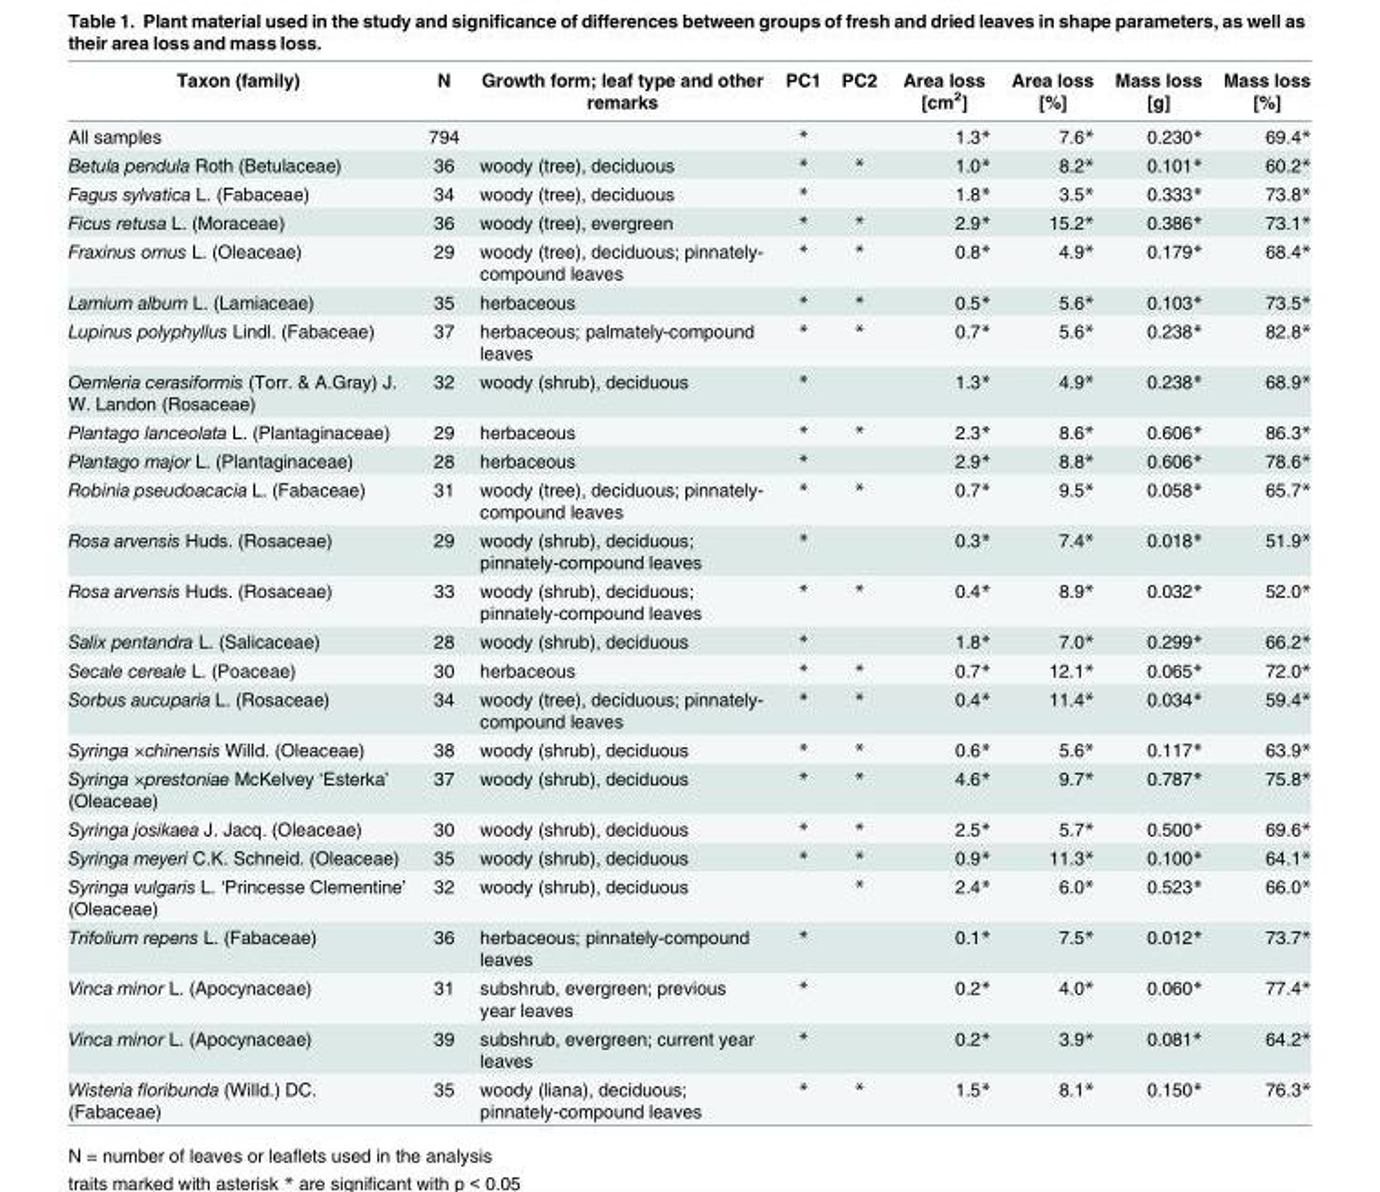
<table><thead><tr><td>Taxon (family)</td><td>N</td><td>Growth form; leaf type and other remarks</td><td>PC1</td><td>PC2</td><td>Area loss [cm<sup>2</sup>]</td><td>Area loss [%]</td><td>Mass loss [g]</td><td>Mass loss [%]</td></tr></thead><tbody><tr><td>All samples</td><td>794</td><td></td><td>*</td><td></td><td>1.3*</td><td>7.6*</td><td>0.230*</td><td>69.4*</td></tr><tr><td>Betula pendula Roth (Betulaceae)</td><td>36</td><td>woody (tree), deciduous</td><td>*</td><td>*</td><td>1.0*</td><td>8.2*</td><td>0.101*</td><td>60.2*</td></tr><tr><td>Fagus sylvatica L. (Fabaceae)</td><td>34</td><td>woody (tree), deciduous</td><td>*</td><td></td><td>1.8*</td><td>3.5*</td><td>0.333*</td><td>73.8*</td></tr><tr><td>Ficus retusa L. (Moraceae)</td><td>36</td><td>woody (tree), evergreen</td><td>*</td><td>*</td><td>2.9*</td><td>15.2*</td><td>0.386*</td><td>73.1*</td></tr><tr><td>Fraxinus ornus L. (Oleaceae)</td><td>29</td><td>woody (tree), deciduous; pinnately- compound leaves</td><td>*</td><td>*</td><td>0.8*</td><td>4.9*</td><td>0.179*</td><td>68.4*</td></tr><tr><td>Lamium album L. (Lamiaceae)</td><td>35</td><td>herbaceous</td><td>*</td><td>*</td><td>0.5*</td><td>5.6*</td><td>0.103*</td><td>73.5*</td></tr><tr><td>Lupinus polyphyllus Lindl. (Fabaceae)</td><td>37</td><td>herbaceous; palmately-compound leaves</td><td>*</td><td>*</td><td>0.7*</td><td>5.6*</td><td>0.238*</td><td>82.8*</td></tr><tr><td>Oemleria cerasiformis (Torr. &amp; A.Gray) J. W. Landon (Rosaceae)</td><td>32</td><td>woody (shrub), deciduous</td><td>*</td><td></td><td>1.3*</td><td>4.9*</td><td>0.238*</td><td>68.9*</td></tr><tr><td>Plantago lanceolata L. (Plantaginaceae)</td><td>29</td><td>herbaceous</td><td>*</td><td>*</td><td>2.3*</td><td>8.6*</td><td>0.606*</td><td>86.3*</td></tr><tr><td>Plantago major L. (Plantaginaceae)</td><td>28</td><td>herbaceous</td><td>*</td><td></td><td>2.9*</td><td>8.8*</td><td>0.606*</td><td>78.6*</td></tr><tr><td>Robinia pseudoacacia L. (Fabaceae)</td><td>31</td><td>woody (tree), deciduous; pinnately- compound leaves</td><td>*</td><td>*</td><td>0.7*</td><td>9.5*</td><td>0.058*</td><td>65.7*</td></tr><tr><td>Rosa arvensis Huds. (Rosaceae)</td><td>29</td><td>woody (shrub), deciduous; pinnately-compound leaves</td><td>*</td><td></td><td>0.3*</td><td>7.4*</td><td>0.018*</td><td>51.9*</td></tr><tr><td>Rosa arvensis Huds. (Rosaceae)</td><td>33</td><td>woody (shrub), deciduous; pinnately-compound leaves</td><td>*</td><td>*</td><td>0.4*</td><td>8.9*</td><td>0.032*</td><td>52.0*</td></tr><tr><td>Salix pentandra L. (Salicaceae)</td><td>28</td><td>woody (shrub), deciduous</td><td>*</td><td></td><td>1.8*</td><td>7.0*</td><td>0.299*</td><td>66.2*</td></tr><tr><td>Secale cereale L. (Poaceae)</td><td>30</td><td>herbaceous</td><td>*</td><td>*</td><td>0.7*</td><td>12.1*</td><td>0.065*</td><td>72.0*</td></tr><tr><td>Sorbus aucuparia L. (Rosaceae)</td><td>34</td><td>woody (tree), deciduous; pinnately- compound leaves</td><td>*</td><td>*</td><td>0.4*</td><td>11.4*</td><td>0.034*</td><td>59.4*</td></tr><tr><td>Syringa ×chinensis Willd. (Oleaceae)</td><td>38</td><td>woody (shrub), deciduous</td><td>*</td><td>*</td><td>0.6*</td><td>5.6*</td><td>0.117*</td><td>63.9*</td></tr><tr><td>Syringa ×prestoniae McKelvey ‘Esterka’ (Oleaceae)</td><td>37</td><td>woody (shrub), deciduous</td><td>*</td><td>*</td><td>4.6*</td><td>9.7*</td><td>0.787*</td><td>75.8*</td></tr><tr><td>Syringa josikaea J. Jacq. (Oleaceae)</td><td>30</td><td>woody (shrub), deciduous</td><td>*</td><td>*</td><td>2.5*</td><td>5.7*</td><td>0.500*</td><td>69.6*</td></tr><tr><td>Syringa meyeri C.K. Schneid. (Oleaceae)</td><td>35</td><td>woody (shrub), deciduous</td><td>*</td><td>*</td><td>0.9*</td><td>11.3*</td><td>0.100*</td><td>64.1*</td></tr><tr><td>Syringa vulgaris L. ‘Princesse Clementine’ (Oleaceae)</td><td>32</td><td>woody (shrub), deciduous</td><td></td><td>*</td><td>2.4*</td><td>6.0*</td><td>0.523*</td><td>66.0*</td></tr><tr><td>Trifolium repens L. (Fabaceae)</td><td>36</td><td>herbaceous; pinnately-compound leaves</td><td>*</td><td></td><td>0.1*</td><td>7.5*</td><td>0.012*</td><td>73.7*</td></tr><tr><td>Vinca minor L. (Apocynaceae)</td><td>31</td><td>subshrub, evergreen; previous year leaves</td><td>*</td><td></td><td>0.2*</td><td>4.0*</td><td>0.060*</td><td>77.4*</td></tr><tr><td>Vinca minor L. (Apocynaceae)</td><td>39</td><td>subshrub, evergreen; current year leaves</td><td>*</td><td></td><td>0.2*</td><td>3.9*</td><td>0.081*</td><td>64.2*</td></tr><tr><td>Wisteria floribunda (Willd.) DC. (Fabaceae)</td><td>35</td><td>woody (liana), deciduous; pinnately-compound leaves</td><td>*</td><td>*</td><td>1.5*</td><td>8.1*</td><td>0.150*</td><td>76.3*</td></tr></tbody></table>